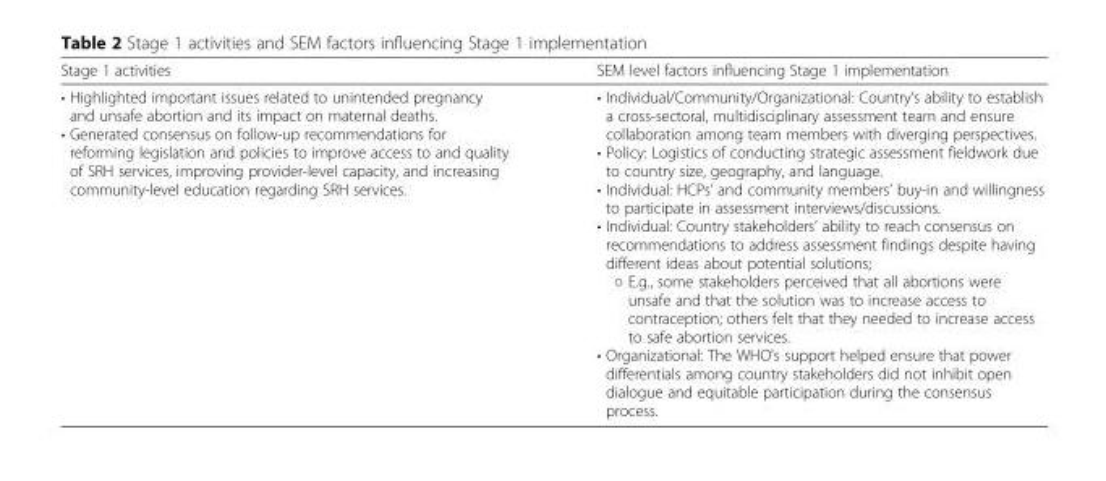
<table><thead><tr><td>Stage 1 activities</td><td>SEM level factors influencing Stage 1 implementation</td></tr></thead><tbody><tr><td>• Highlighted important issues related to unintended pregnancy and unsafe abortion and its impact on maternal deaths. • Generated consensus on follow-up recommendations for reforming legislation and policies to improve access to and quality of SRH services, improving provider-level capacity, and increasing community-level education regarding SRH services.</td><td>• Individual/Community/Organizational: Country’s ability to establish a cross-sectoral, multidisciplinary assessment team and ensure collaboration among team members with diverging perspectives. • Policy: Logistics of conducting strategic assessment fieldwork due to country size, geography, and language. • Individual: HCPs’ and community members’ buy-in and willingness to participate in assessment interviews/discussions. • Individual: Country stakeholders’ ability to reach consensus on recommendations to address assessment findings despite having different ideas about potential solutions; ○ E.g., some stakeholders perceived that all abortions were unsafe and that the solution was to increase access to contraception; others felt that they needed to increase access to safe abortion services. • Organizational: The WHO’s support helped ensure that power differentials among country stakeholders did not inhibit open dialogue and equitable participation during the consensus process.</td></tr></tbody></table>